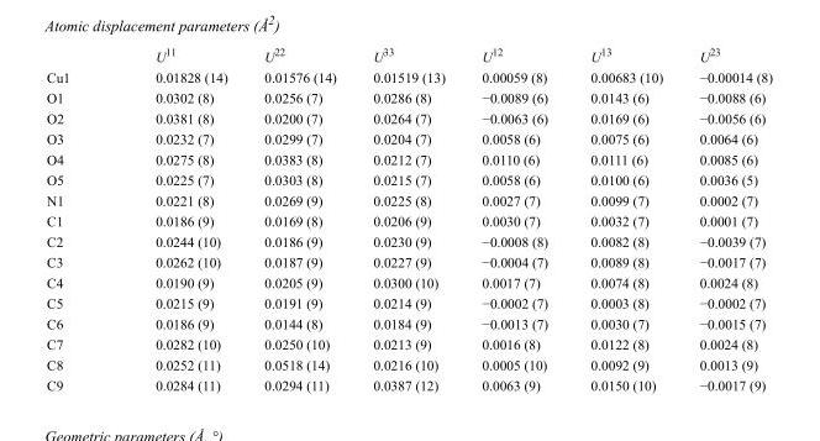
<table><thead><tr><td></td><td>U<sup>11</sup></td><td>U<sup>22</sup></td><td>U<sup>33</sup></td><td>U<sup>12</sup></td><td>U<sup>13</sup></td><td>U<sup>23</sup></td></tr></thead><tbody><tr><td>Cu1</td><td>0.01828 (14)</td><td>0.01576 (14)</td><td>0.01519 (13)</td><td>0.00059 (8)</td><td>0.00683 (10)</td><td>−0.00014 (8)</td></tr><tr><td>O1</td><td>0.0302 (8)</td><td>0.0256 (7)</td><td>0.0286 (8)</td><td>−0.0089 (6)</td><td>0.0143 (6)</td><td>−0.0088 (6)</td></tr><tr><td>O2</td><td>0.0381 (8)</td><td>0.0200 (7)</td><td>0.0264 (7)</td><td>−0.0063 (6)</td><td>0.0169 (6)</td><td>−0.0056 (6)</td></tr><tr><td>O3</td><td>0.0232 (7)</td><td>0.0299 (7)</td><td>0.0204 (7)</td><td>0.0058 (6)</td><td>0.0075 (6)</td><td>0.0064 (6)</td></tr><tr><td>O4</td><td>0.0275 (8)</td><td>0.0383 (8)</td><td>0.0212 (7)</td><td>0.0110 (6)</td><td>0.0111 (6)</td><td>0.0085 (6)</td></tr><tr><td>O5</td><td>0.0225 (7)</td><td>0.0303 (8)</td><td>0.0215 (7)</td><td>0.0058 (6)</td><td>0.0100 (6)</td><td>0.0036 (5)</td></tr><tr><td>N1</td><td>0.0221 (8)</td><td>0.0269 (9)</td><td>0.0225 (8)</td><td>0.0027 (7)</td><td>0.0099 (7)</td><td>0.0002 (7)</td></tr><tr><td>C1</td><td>0.0186 (9)</td><td>0.0169 (8)</td><td>0.0206 (9)</td><td>0.0030 (7)</td><td>0.0032 (7)</td><td>0.0001 (7)</td></tr><tr><td>C2</td><td>0.0244 (10)</td><td>0.0186 (9)</td><td>0.0230 (9)</td><td>−0.0008 (8)</td><td>0.0082 (8)</td><td>−0.0039 (7)</td></tr><tr><td>C3</td><td>0.0262 (10)</td><td>0.0187 (9)</td><td>0.0227 (9)</td><td>−0.0004 (7)</td><td>0.0089 (8)</td><td>−0.0017 (7)</td></tr><tr><td>C4</td><td>0.0190 (9)</td><td>0.0205 (9)</td><td>0.0300 (10)</td><td>0.0017 (7)</td><td>0.0074 (8)</td><td>0.0024 (8)</td></tr><tr><td>C5</td><td>0.0215 (9)</td><td>0.0191 (9)</td><td>0.0214 (9)</td><td>−0.0002 (7)</td><td>0.0003 (8)</td><td>−0.0002 (7)</td></tr><tr><td>C6</td><td>0.0186 (9)</td><td>0.0144 (8)</td><td>0.0184 (9)</td><td>−0.0013 (7)</td><td>0.0030 (7)</td><td>−0.0015 (7)</td></tr><tr><td>C7</td><td>0.0282 (10)</td><td>0.0250 (10)</td><td>0.0213 (9)</td><td>0.0016 (8)</td><td>0.0122 (8)</td><td>0.0024 (8)</td></tr><tr><td>C8</td><td>0.0252 (11)</td><td>0.0518 (14)</td><td>0.0216 (10)</td><td>0.0005 (10)</td><td>0.0092 (9)</td><td>0.0013 (9)</td></tr><tr><td>C9</td><td>0.0284 (11)</td><td>0.0294 (11)</td><td>0.0387 (12)</td><td>0.0063 (9)</td><td>0.0150 (10)</td><td>−0.0017 (9)</td></tr></tbody></table>